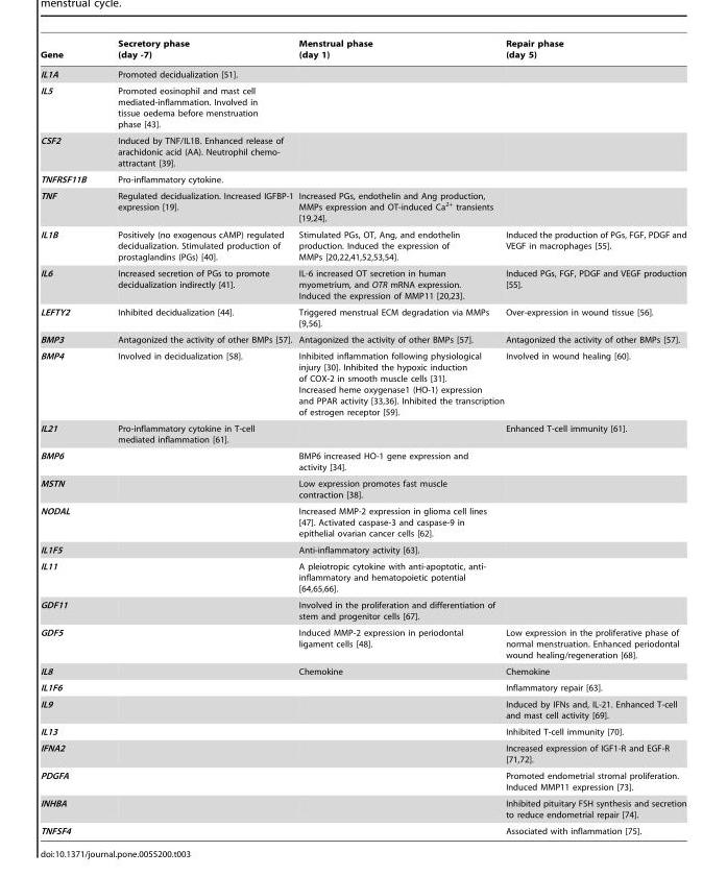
<table><thead><tr><td>Gene</td><td>Secretory phase (day -7)</td><td>Menstrual phase (day 1)</td><td>Repair phase (day 5)</td></tr></thead><tbody><tr><td>IL1A</td><td>Promoted decidualization [51].</td><td></td><td></td></tr><tr><td>IL5</td><td>Promoted eosinophil and mast cell mediated-inflammation. Involved in tissue oedema before menstruation phase [43].</td><td></td><td></td></tr><tr><td>CSF2</td><td>Induced by TNF/IL1B. Enhanced release of arachidonic acid (AA). Neutrophil chemo- attractant [39].</td><td></td><td></td></tr><tr><td>TNFRSF11B</td><td>Pro-inflammatory cytokine.</td><td></td><td></td></tr><tr><td>TNF</td><td>Regulated decidualization. Increased IGFBP-1 expression [19].</td><td>Increased PGs, endothelin and Ang production, MMPs expression and OT-induced Ca2+ transients [19,24].</td><td></td></tr><tr><td>IL1B</td><td>Positively (no exogenous cAMP) regulated decidualization. Stimulated production of prostaglandins (PGs) [40].</td><td>Stimulated PGs, OT, Ang, and endothelin production. Induced the expression of MMPs [20,22,41,52,53,54].</td><td>Induced the production of PGs, FGF, PDGF and VEGF in macrophages [55].</td></tr><tr><td>IL6</td><td>Increased secretion of PGs to promote decidualization indirectly [41].</td><td>IL-6 increased OT secretion in human myometrium, and OTR mRNA expression. Induced the expression of MMP11 [20,23].</td><td>Induced PGs, FGF, PDGF and VEGF production [55].</td></tr><tr><td>LEFTY2</td><td>Inhibited decidualization [44].</td><td>Triggered menstrual ECM degradation via MMPs [9,56].</td><td>Over-expression in wound tissue [56].</td></tr><tr><td>BMP3</td><td>Antagonized the activity of other BMPs [57].</td><td>Antagonized the activity of other BMPs [57].</td><td>Antagonized the activity of other BMPs [57].</td></tr><tr><td>BMP4</td><td>Involved in decidualization [58].</td><td>Inhibited inflammation following physiological injury [30]. Inhibited the hypoxic induction of COX-2 in smooth muscle cells [31]. Increased heme oxygenase1 (HO-1) expression and PPAR activity [33,36]. Inhibited the transcription of estrogen receptor [59].</td><td>Involved in wound healing [60].</td></tr><tr><td>IL21</td><td>Pro-inflammatory cytokine in T-cell mediated inflammation [61].</td><td></td><td>Enhanced T-cell immunity [61].</td></tr><tr><td>BMP6</td><td></td><td>BMP6 increased HO-1 gene expression and activity [34].</td><td></td></tr><tr><td>MSTN</td><td></td><td>Low expression promotes fast muscle contraction [38].</td><td></td></tr><tr><td>NODAL</td><td></td><td>Increased MMP-2 expression in glioma cell lines [47]. Activated caspase-3 and caspase-9 in epithelial ovarian cancer cells [62].</td><td></td></tr><tr><td>IL1F5</td><td></td><td>Anti-inflammatory activity [63].</td><td></td></tr><tr><td>IL11</td><td></td><td>A pleiotropic cytokine with anti-apoptotic, anti- inflammatory and hematopoietic potential [64,65,66].</td><td></td></tr><tr><td>GDF11</td><td></td><td>Involved in the proliferation and differentiation of stem and progenitor cells [67].</td><td></td></tr><tr><td>GDF5</td><td></td><td>Induced MMP-2 expression in periodontal ligament cells [48].</td><td>Low expression in the proliferative phase of normal menstruation. Enhanced periodontal wound healing/regeneration [68].</td></tr><tr><td>IL8</td><td></td><td>Chemokine</td><td>Chemokine</td></tr><tr><td>IL1F6</td><td></td><td></td><td>Inflammatory repair [63].</td></tr><tr><td>IL9</td><td></td><td></td><td>Induced by IFNs and, IL-21. Enhanced T-cell and mast cell activity [69].</td></tr><tr><td>IL13</td><td></td><td></td><td>Inhibited T-cell immunity [70].</td></tr><tr><td>IFNA2</td><td></td><td></td><td>Increased expression of IGF1-R and EGF-R [71,72].</td></tr><tr><td>PDGFA</td><td></td><td></td><td>Promoted endometrial stromal proliferation. Induced MMP11 expression [73].</td></tr><tr><td>INHBA</td><td></td><td></td><td>Inhibited pituitary FSH synthesis and secretion to reduce endometrial repair [74].</td></tr><tr><td>TNFSF4</td><td></td><td></td><td>Associated with inflammation [75].</td></tr></tbody></table>